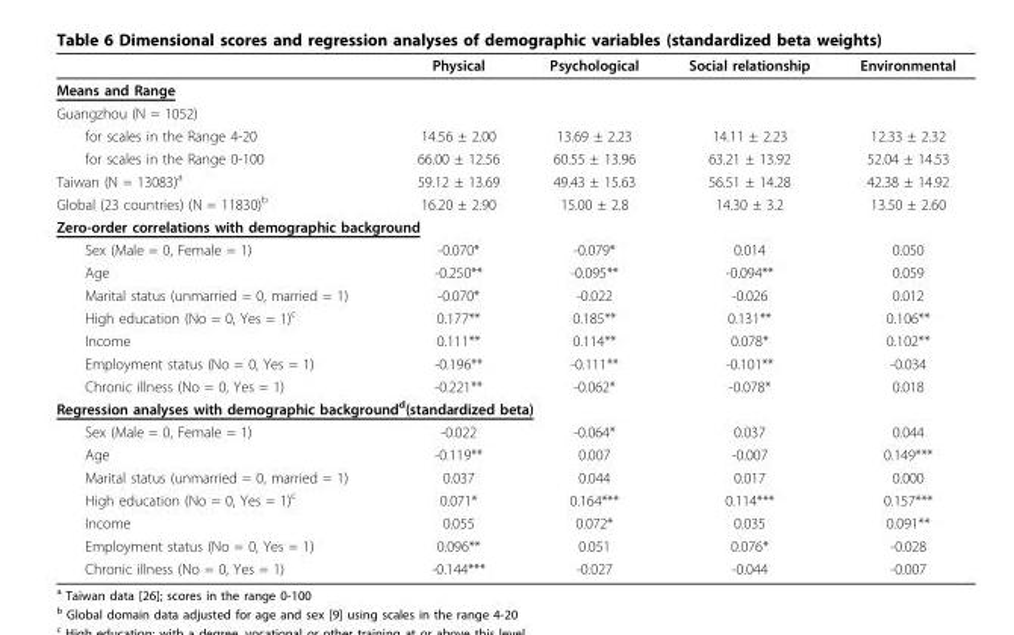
<table><thead><tr><td></td><td>Physical</td><td>Psychological</td><td>Social relationship</td><td>Environmental</td></tr></thead><tbody><tr><td colspan="5">Means and Range</td></tr><tr><td colspan="5">Guangzhou (N = 1052)</td></tr><tr><td>for scales in the Range 4-20</td><td>14.56 ± 2.00</td><td>13.69 ± 2.23</td><td>14.11 ± 2.23</td><td>12.33 ± 2.32</td></tr><tr><td>for scales in the Range 0-100</td><td>66.00 ± 12.56</td><td>60.55 ± 13.96</td><td>63.21 ± 13.92</td><td>52.04 ± 14.53</td></tr><tr><td>Taiwan (N = 13083)<sup>a</sup></td><td>59.12 ± 13.69</td><td>49.43 ± 15.63</td><td>56.51 ± 14.28</td><td>42.38 ± 14.92</td></tr><tr><td>Global (23 countries) (N = 11830)<sup>b</sup></td><td>16.20 ± 2.90</td><td>15.00 ± 2.8</td><td>14.30 ± 3.2</td><td>13.50 ± 2.60</td></tr><tr><td colspan="5">Zero-order correlations with demographic background</td></tr><tr><td>Sex (Male = 0, Female = 1)</td><td>-0.070*</td><td>-0.079*</td><td>0.014</td><td>0.050</td></tr><tr><td>Age</td><td>-0.250**</td><td>-0.095**</td><td>-0.094**</td><td>0.059</td></tr><tr><td>Marital status (unmarried = 0, married = 1)</td><td>-0.070*</td><td>-0.022</td><td>-0.026</td><td>0.012</td></tr><tr><td>High education (No = 0, Yes = 1)<sup>c</sup></td><td>0.177**</td><td>0.185**</td><td>0.131**</td><td>0.106**</td></tr><tr><td>Income</td><td>0.111**</td><td>0.114**</td><td>0.078*</td><td>0.102**</td></tr><tr><td>Employment status (No = 0, Yes = 1)</td><td>-0.196**</td><td>-0.111**</td><td>-0.101**</td><td>-0.034</td></tr><tr><td>Chronic illness (No = 0, Yes = 1)</td><td>-0.221**</td><td>-0.062*</td><td>-0.078*</td><td>0.018</td></tr><tr><td colspan="5">Regression analyses with demographic background<sup>d</sup>(standardized beta)</td></tr><tr><td>Sex (Male = 0, Female = 1)</td><td>-0.022</td><td>-0.064*</td><td>0.037</td><td>0.044</td></tr><tr><td>Age</td><td>-0.119**</td><td>0.007</td><td>-0.007</td><td>0.149***</td></tr><tr><td>Marital status (unmarried = 0, married = 1)</td><td>0.037</td><td>0.044</td><td>0.017</td><td>0.000</td></tr><tr><td>High education (No = 0, Yes = 1)<sup>c</sup></td><td>0.071*</td><td>0.164***</td><td>0.114***</td><td>0.157***</td></tr><tr><td>Income</td><td>0.055</td><td>0.072*</td><td>0.035</td><td>0.091**</td></tr><tr><td>Employment status (No = 0, Yes = 1)</td><td>0.096**</td><td>0.051</td><td>0.076*</td><td>-0.028</td></tr><tr><td>Chronic illness (No = 0, Yes = 1)</td><td>-0.144***</td><td>-0.027</td><td>-0.044</td><td>-0.007</td></tr></tbody></table>